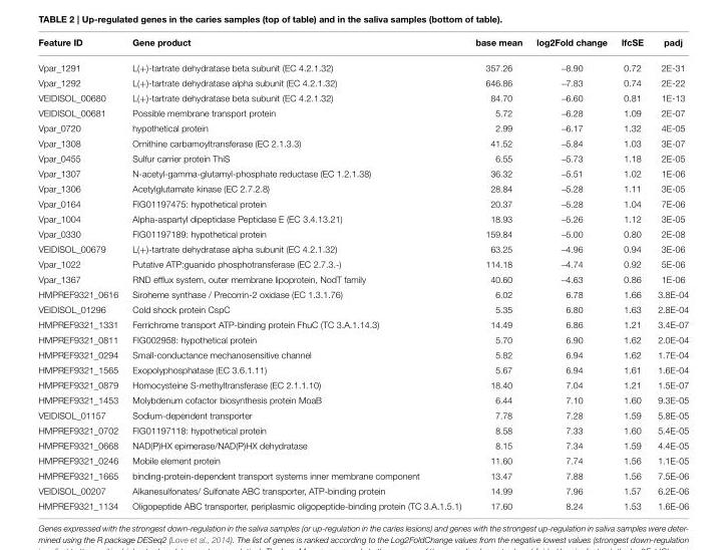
<table><thead><tr><td>Feature ID</td><td>Gene product</td><td>base mean</td><td>log2Fold change</td><td>lfcSE</td><td>padj</td></tr></thead><tbody><tr><td>Vpar_1291</td><td>L(+)-tartrate dehydratase beta subunit (EC 4.2.1.32)</td><td>357.26</td><td>−8.90</td><td>0.72</td><td>2E-31</td></tr><tr><td>Vpar_1292</td><td>L(+)-tartrate dehydratase alpha subunit (EC 4.2.1.32)</td><td>646.86</td><td>−7.83</td><td>0.74</td><td>2E-22</td></tr><tr><td>VEIDISOL_00680</td><td>L(+)-tartrate dehydratase beta subunit (EC 4.2.1.32)</td><td>84.70</td><td>−6.60</td><td>0.81</td><td>1E-13</td></tr><tr><td>VEIDISOL_00681</td><td>Possible membrane transport protein</td><td>5.72</td><td>−6.28</td><td>1.09</td><td>2E-07</td></tr><tr><td>Vpar_0720</td><td>hypothetical protein</td><td>2.99</td><td>−6.17</td><td>1.32</td><td>4E-05</td></tr><tr><td>Vpar_1308</td><td>Ornithine carbamoyltransferase (EC 2.1.3.3)</td><td>41.52</td><td>−5.84</td><td>1.03</td><td>3E-07</td></tr><tr><td>Vpar_0455</td><td>Sulfur carrier protein ThiS</td><td>6.55</td><td>−5.73</td><td>1.18</td><td>2E-05</td></tr><tr><td>Vpar_1307</td><td>N-acetyl-gamma-glutamyl-phosphate reductase (EC 1.2.1.38)</td><td>36.32</td><td>−5.51</td><td>1.02</td><td>1E-06</td></tr><tr><td>Vpar_1306</td><td>Acetylglutamate kinase (EC 2.7.2.8)</td><td>28.84</td><td>−5.28</td><td>1.11</td><td>3E-05</td></tr><tr><td>Vpar_0164</td><td>FIG01197475: hypothetical protein</td><td>20.37</td><td>−5.28</td><td>1.04</td><td>7E-06</td></tr><tr><td>Vpar_1004</td><td>Alpha-aspartyl dipeptidase Peptidase E (EC 3.4.13.21)</td><td>18.93</td><td>−5.26</td><td>1.12</td><td>3E-05</td></tr><tr><td>Vpar_0330</td><td>FIG01197189: hypothetical protein</td><td>159.84</td><td>−5.00</td><td>0.80</td><td>2E-08</td></tr><tr><td>VEIDISOL_00679</td><td>L(+)-tartrate dehydratase alpha subunit (EC 4.2.1.32)</td><td>63.25</td><td>−4.96</td><td>0.94</td><td>3E-06</td></tr><tr><td>Vpar_1022</td><td>Putative ATP:guanido phosphotransferase (EC 2.7.3.-)</td><td>114.18</td><td>−4.74</td><td>0.92</td><td>5E-06</td></tr><tr><td>Vpar_1367</td><td>RND efflux system, outer membrane lipoprotein, NodT family</td><td>40.60</td><td>−4.63</td><td>0.86</td><td>1E-06</td></tr><tr><td>HMPREF9321_0616</td><td>Siroheme synthase / Precorrin-2 oxidase (EC 1.3.1.76)</td><td>6.02</td><td>6.78</td><td>1.66</td><td>3.8E-04</td></tr><tr><td>VEIDISOL_01296</td><td>Cold shock protein CspC</td><td>5.35</td><td>6.80</td><td>1.63</td><td>2.8E-04</td></tr><tr><td>HMPREF9321_1331</td><td>Ferrichrome transport ATP-binding protein FhuC (TC 3.A.1.14.3)</td><td>14.49</td><td>6.86</td><td>1.21</td><td>3.4E-07</td></tr><tr><td>HMPREF9321_0811</td><td>FIG002958: hypothetical protein</td><td>5.70</td><td>6.90</td><td>1.62</td><td>2.0E-04</td></tr><tr><td>HMPREF9321_0294</td><td>Small-conductance mechanosensitive channel</td><td>5.82</td><td>6.94</td><td>1.62</td><td>1.7E-04</td></tr><tr><td>HMPREF9321_1565</td><td>Exopolyphosphatase (EC 3.6.1.11)</td><td>5.67</td><td>6.94</td><td>1.61</td><td>1.6E-04</td></tr><tr><td>HMPREF9321_0879</td><td>Homocysteine S-methyltransferase (EC 2.1.1.10)</td><td>18.40</td><td>7.04</td><td>1.21</td><td>1.5E-07</td></tr><tr><td>HMPREF9321_1453</td><td>Molybdenum cofactor biosynthesis protein MoaB</td><td>6.44</td><td>7.10</td><td>1.60</td><td>9.3E-05</td></tr><tr><td>VEIDISOL_01157</td><td>Sodium-dependent transporter</td><td>7.78</td><td>7.28</td><td>1.59</td><td>5.8E-05</td></tr><tr><td>HMPREF9321_0702</td><td>FIG01197118: hypothetical protein</td><td>8.58</td><td>7.33</td><td>1.60</td><td>5.4E-05</td></tr><tr><td>HMPREF9321_0668</td><td>NAD(P)HX epimerase/NAD(P)HX dehydratase</td><td>8.15</td><td>7.34</td><td>1.59</td><td>4.4E-05</td></tr><tr><td>HMPREF9321_0246</td><td>Mobile element protein</td><td>11.60</td><td>7.74</td><td>1.56</td><td>1.1E-05</td></tr><tr><td>HMPREF9321_1665</td><td>binding-protein-dependent transport systems inner membrane component</td><td>13.47</td><td>7.88</td><td>1.56</td><td>7.5E-06</td></tr><tr><td>VEIDISOL_00207</td><td>Alkanesulfonates/ Sulfonate ABC transporter, ATP-binding protein</td><td>14.99</td><td>7.96</td><td>1.57</td><td>6.2E-06</td></tr><tr><td>HMPREF9321_1134</td><td>Oligopeptide ABC transporter, periplasmic oligopeptide-binding protein (TC 3.A.1.5.1)</td><td>17.60</td><td>8.24</td><td>1.53</td><td>1.6E-06</td></tr></tbody></table>